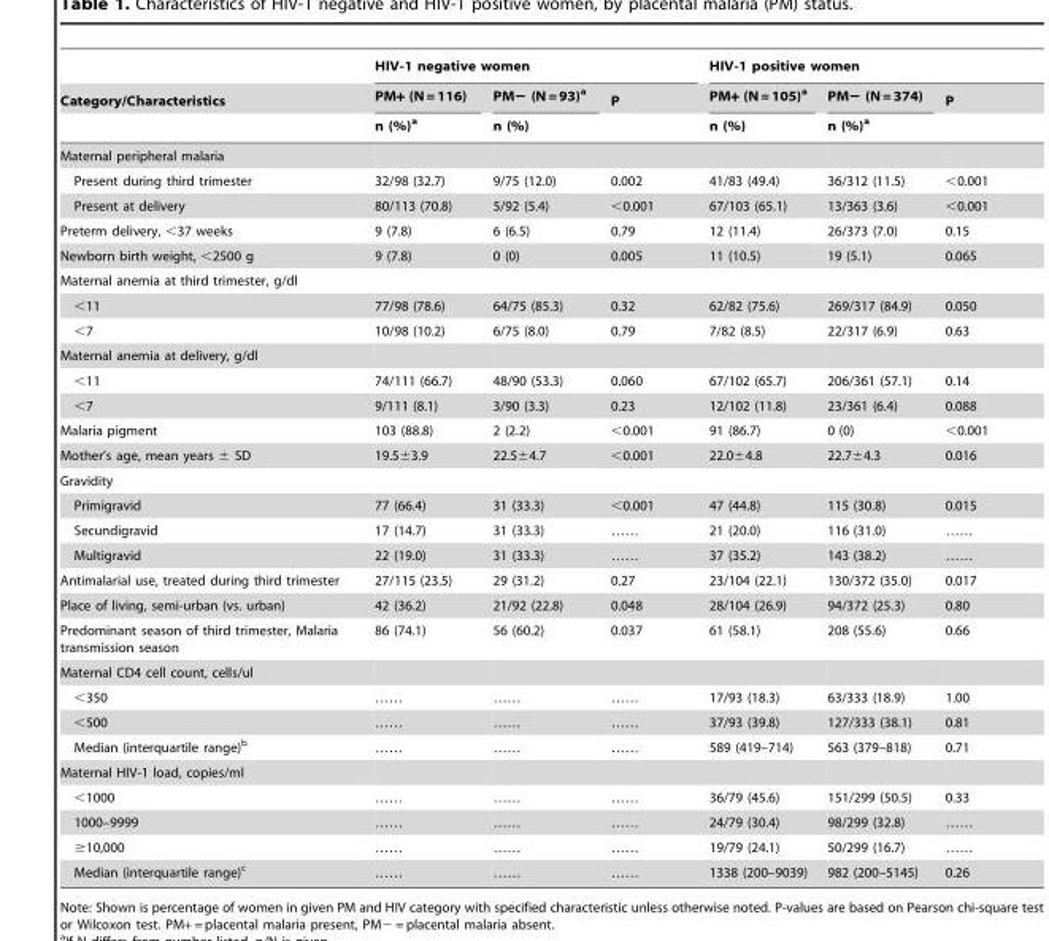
<table><thead><tr><td rowspan="3">Category/Characteristics</td><td colspan="3">HIV-1 negative women</td><td colspan="3">HIV-1 positive women</td></tr><tr><td rowspan="2">PM+ (N = 116) n (%)<sup>a</sup></td><td rowspan="2">PM− (N = 93)<sup>a</sup> n (%)</td><td rowspan="2">P</td><td rowspan="2">PM+ (N = 105)<sup>a</sup> n (%)</td><td rowspan="2">PM− (N = 374) n (%)<sup>a</sup></td><td rowspan="2">P</td></tr><tr></tr></thead><tbody><tr><td colspan="7">Maternal peripheral malaria</td></tr><tr><td>Present during third trimester</td><td>32/98 (32.7)</td><td>9/75 (12.0)</td><td>0.002</td><td>41/83 (49.4)</td><td>36/312 (11.5)</td><td>&lt;0.001</td></tr><tr><td>Present at delivery</td><td>80/113 (70.8)</td><td>5/92 (5.4)</td><td>&lt;0.001</td><td>67/103 (65.1)</td><td>13/363 (3.6)</td><td>&lt;0.001</td></tr><tr><td>Preterm delivery, &lt;37 weeks</td><td>9 (7.8)</td><td>6 (6.5)</td><td>0.79</td><td>12 (11.4)</td><td>26/373 (7.0)</td><td>0.15</td></tr><tr><td>Newborn birth weight, &lt;2500 g</td><td>9 (7.8)</td><td>0 (0)</td><td>0.005</td><td>11 (10.5)</td><td>19 (5.1)</td><td>0.065</td></tr><tr><td colspan="7">Maternal anemia at third trimester, g/dl</td></tr><tr><td>&lt;11</td><td>77/98 (78.6)</td><td>64/75 (85.3)</td><td>0.32</td><td>62/82 (75.6)</td><td>269/317 (84.9)</td><td>0.050</td></tr><tr><td>&lt;7</td><td>10/98 (10.2)</td><td>6/75 (8.0)</td><td>0.79</td><td>7/82 (8.5)</td><td>22/317 (6.9)</td><td>0.63</td></tr><tr><td colspan="7">Maternal anemia at delivery, g/dl</td></tr><tr><td>&lt;11</td><td>74/111 (66.7)</td><td>48/90 (53.3)</td><td>0.060</td><td>67/102 (65.7)</td><td>206/361 (57.1)</td><td>0.14</td></tr><tr><td>&lt;7</td><td>9/111 (8.1)</td><td>3/90 (3.3)</td><td>0.23</td><td>12/102 (11.8)</td><td>23/361 (6.4)</td><td>0.088</td></tr><tr><td>Malaria pigment</td><td>103 (88.8)</td><td>2 (2.2)</td><td>&lt;0.001</td><td>91 (86.7)</td><td>0 (0)</td><td>&lt;0.001</td></tr><tr><td>Mother’s age, mean years ± SD</td><td>19.5±3.9</td><td>22.5±4.7</td><td>&lt;0.001</td><td>22.0±4.8</td><td>22.7±4.3</td><td>0.016</td></tr><tr><td colspan="7">Gravidity</td></tr><tr><td>Primigravid</td><td>77 (66.4)</td><td>31 (33.3)</td><td>&lt;0.001</td><td>47 (44.8)</td><td>115 (30.8)</td><td>0.015</td></tr><tr><td>Secundigravid</td><td>17 (14.7)</td><td>31 (33.3)</td><td>……</td><td>21 (20.0)</td><td>116 (31.0)</td><td>……</td></tr><tr><td>Multigravid</td><td>22 (19.0)</td><td>31 (33.3)</td><td>……</td><td>37 (35.2)</td><td>143 (38.2)</td><td>……</td></tr><tr><td>Antimalarial use, treated during third trimester</td><td>27/115 (23.5)</td><td>29 (31.2)</td><td>0.27</td><td>23/104 (22.1)</td><td>130/372 (35.0)</td><td>0.017</td></tr><tr><td>Place of living, semi-urban (vs. urban)</td><td>42 (36.2)</td><td>21/92 (22.8)</td><td>0.048</td><td>28/104 (26.9)</td><td>94/372 (25.3)</td><td>0.80</td></tr><tr><td>Predominant season of third trimester, Malaria transmission season</td><td>86 (74.1)</td><td>56 (60.2)</td><td>0.037</td><td>61 (58.1)</td><td>208 (55.6)</td><td>0.66</td></tr><tr><td colspan="7">Maternal CD4 cell count, cells/ul</td></tr><tr><td>&lt;350</td><td>……</td><td>……</td><td>……</td><td>17/93 (18.3)</td><td>63/333 (18.9)</td><td>1.00</td></tr><tr><td>&lt;500</td><td>……</td><td>……</td><td>……</td><td>37/93 (39.8)</td><td>127/333 (38.1)</td><td>0.81</td></tr><tr><td>Median (interquartile range)<sup>b</sup></td><td>……</td><td>……</td><td>……</td><td>589 (419–714)</td><td>563 (379–818)</td><td>0.71</td></tr><tr><td colspan="7">Maternal HIV-1 load, copies/ml</td></tr><tr><td>&lt;1000</td><td>……</td><td>……</td><td>……</td><td>36/79 (45.6)</td><td>151/299 (50.5)</td><td>0.33</td></tr><tr><td>1000–9999</td><td>……</td><td>……</td><td>……</td><td>24/79 (30.4)</td><td>98/299 (32.8)</td><td>……</td></tr><tr><td>≥10,000</td><td>……</td><td>……</td><td>……</td><td>19/79 (24.1)</td><td>50/299 (16.7)</td><td>……</td></tr><tr><td>Median (interquartile range)<sup>c</sup></td><td>……</td><td>……</td><td>……</td><td>1338 (200–9039)</td><td>982 (200–5145)</td><td>0.26</td></tr></tbody></table>